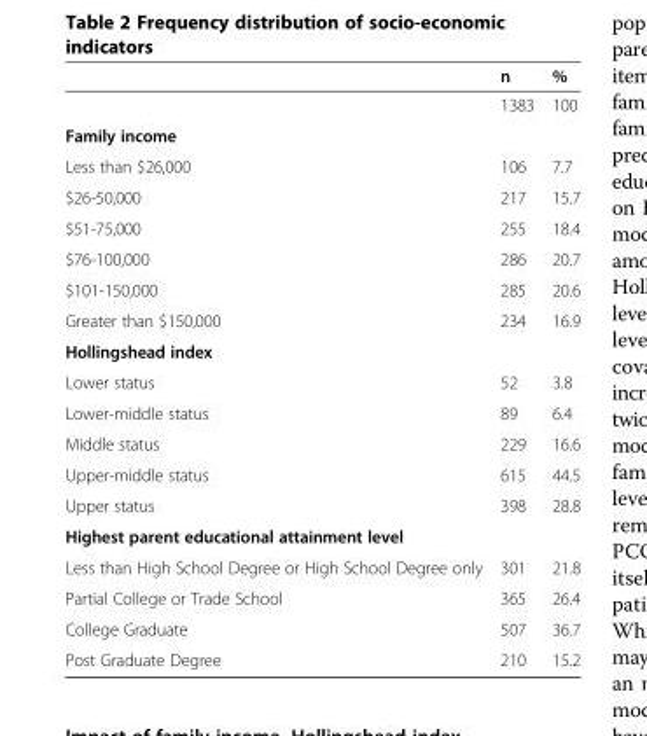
<table><thead><tr><td></td><td>n</td><td>%</td></tr></thead><tbody><tr><td></td><td>1383</td><td>100</td></tr><tr><td colspan="3">Family income</td></tr><tr><td>Less than $26,000</td><td>106</td><td>7.7</td></tr><tr><td>$26-50,000</td><td>217</td><td>15.7</td></tr><tr><td>$51-75,000</td><td>255</td><td>18.4</td></tr><tr><td>$76-100,000</td><td>286</td><td>20.7</td></tr><tr><td>$101-150,000</td><td>285</td><td>20.6</td></tr><tr><td>Greater than $150,000</td><td>234</td><td>16.9</td></tr><tr><td colspan="3">Hollingshead index</td></tr><tr><td>Lower status</td><td>52</td><td>3.8</td></tr><tr><td>Lower-middle status</td><td>89</td><td>6.4</td></tr><tr><td>Middle status</td><td>229</td><td>16.6</td></tr><tr><td>Upper-middle status</td><td>615</td><td>44.5</td></tr><tr><td>Upper status</td><td>398</td><td>28.8</td></tr><tr><td colspan="3">Highest parent educational attainment level</td></tr><tr><td>Less than High School Degree or High School Degree only</td><td>301</td><td>21.8</td></tr><tr><td>Partial College or Trade School</td><td>365</td><td>26.4</td></tr><tr><td>College Graduate</td><td>507</td><td>36.7</td></tr><tr><td>Post Graduate Degree</td><td>210</td><td>15.2</td></tr></tbody></table>